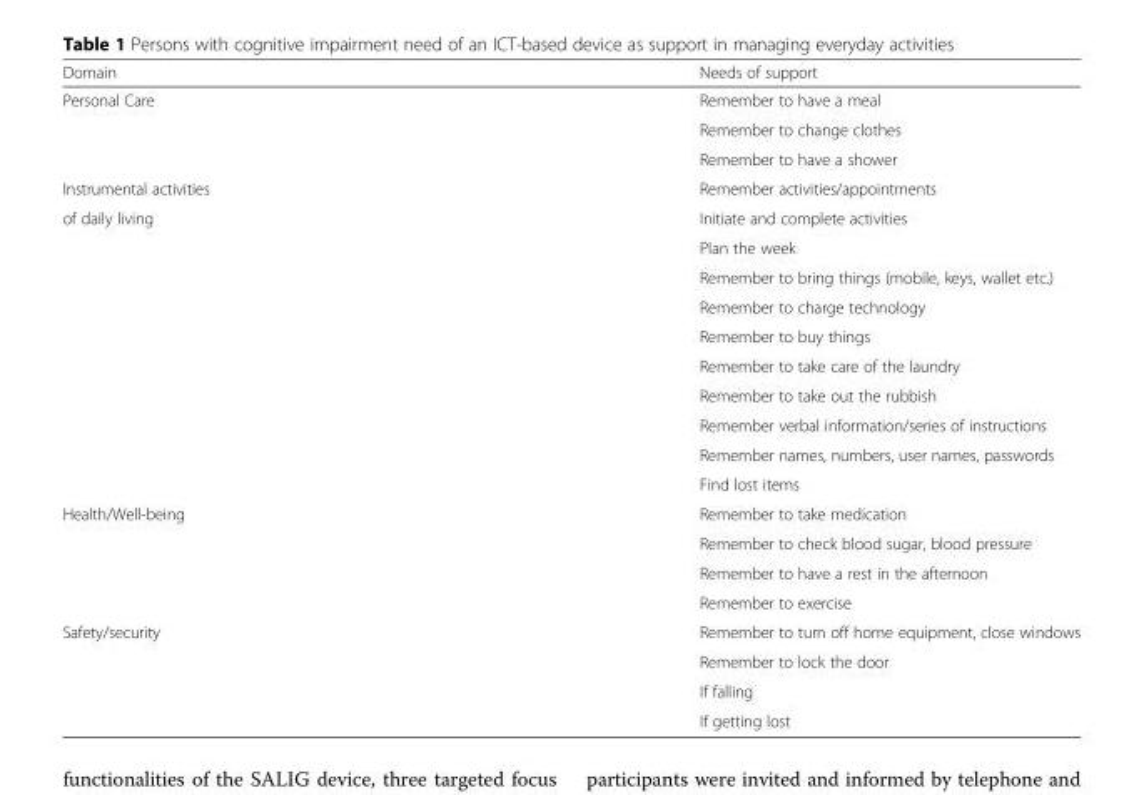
<table><thead><tr><td>Domain</td><td>Needs of support</td></tr></thead><tbody><tr><td rowspan="3">Personal Care</td><td>Remember to have a meal</td></tr><tr><td>Remember to change clothes</td></tr><tr><td>Remember to have a shower</td></tr><tr><td>Instrumental activities</td><td>Remember activities/appointments</td></tr><tr><td rowspan="10">of daily living</td><td>Initiate and complete activities</td></tr><tr><td>Plan the week</td></tr><tr><td>Remember to bring things (mobile, keys, wallet etc.)</td></tr><tr><td>Remember to charge technology</td></tr><tr><td>Remember to buy things</td></tr><tr><td>Remember to take care of the laundry</td></tr><tr><td>Remember to take out the rubbish</td></tr><tr><td>Remember verbal information/series of instructions</td></tr><tr><td>Remember names, numbers, user names, passwords</td></tr><tr><td>Find lost items</td></tr><tr><td rowspan="4">Health/Well-being</td><td>Remember to take medication</td></tr><tr><td>Remember to check blood sugar, blood pressure</td></tr><tr><td>Remember to have a rest in the afternoon</td></tr><tr><td>Remember to exercise</td></tr><tr><td rowspan="4">Safety/security</td><td>Remember to turn off home equipment, close windows</td></tr><tr><td>Remember to lock the door</td></tr><tr><td>If falling</td></tr><tr><td>If getting lost</td></tr></tbody></table>